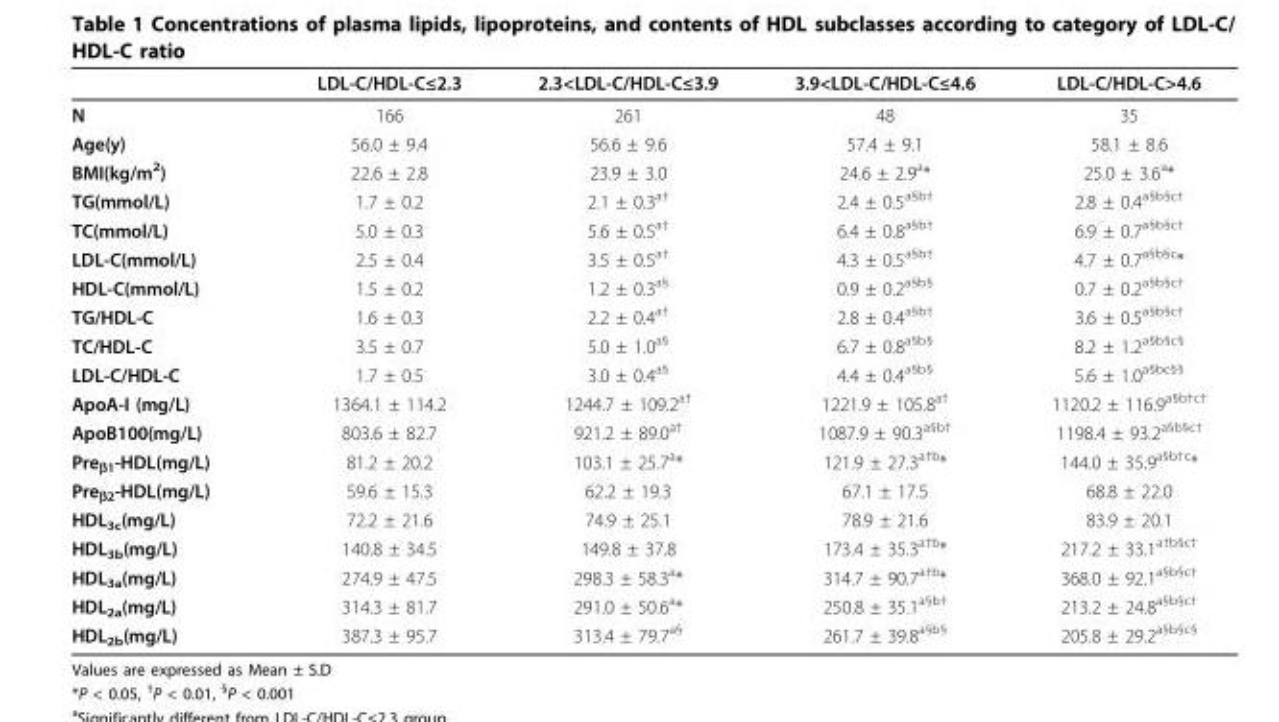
<table><thead><tr><td></td><td>LDL-C/HDL-C≤2.3</td><td>2.3&lt;LDL-C/HDL-C≤3.9</td><td>3.9&lt;LDL-C/HDL-C≤4.6</td><td>LDL-C/HDL-C&gt;4.6</td></tr></thead><tbody><tr><td>N</td><td>166</td><td>261</td><td>48</td><td>35</td></tr><tr><td>Age(y)</td><td>56.0 ± 9.4</td><td>56.6 ± 9.6</td><td>57.4 ± 9.1</td><td>58.1 ± 8.6</td></tr><tr><td>BMI(kg/m<sup>2</sup>)</td><td>22.6 ± 2.8</td><td>23.9 ± 3.0</td><td>24.6 ± 2.9<sup>a</sup>*</td><td>25.0 ± 3.6<sup>a</sup>*</td></tr><tr><td>TG(mmol/L)</td><td>1.7 ± 0.2</td><td>2.1 ± 0.3<sup>a†</sup></td><td>2.4 ± 0.5<sup>a§b†</sup></td><td>2.8 ± 0.4<sup>a§b§c†</sup></td></tr><tr><td>TC(mmol/L)</td><td>5.0 ± 0.3</td><td>5.6 ± 0.5<sup>a†</sup></td><td>6.4 ± 0.8<sup>a§b†</sup></td><td>6.9 ± 0.7<sup>a§b§c†</sup></td></tr><tr><td>LDL-C(mmol/L)</td><td>2.5 ± 0.4</td><td>3.5 ± 0.5<sup>a†</sup></td><td>4.3 ± 0.5<sup>a§b†</sup></td><td>4.7 ± 0.7<sup>a§b§c</sup>*</td></tr><tr><td>HDL-C(mmol/L)</td><td>1.5 ± 0.2</td><td>1.2 ± 0.3<sup>a§</sup></td><td>0.9 ± 0.2<sup>a§b§</sup></td><td>0.7 ± 0.2<sup>a§b§c†</sup></td></tr><tr><td>TG/HDL-C</td><td>1.6 ± 0.3</td><td>2.2 ± 0.4<sup>a†</sup></td><td>2.8 ± 0.4<sup>a§b†</sup></td><td>3.6 ± 0.5<sup>a§b§c†</sup></td></tr><tr><td>TC/HDL-C</td><td>3.5 ± 0.7</td><td>5.0 ± 1.0<sup>a§</sup></td><td>6.7 ± 0.8<sup>a§b§</sup></td><td>8.2 ± 1.2<sup>a§b§c§</sup></td></tr><tr><td>LDL-C/HDL-C</td><td>1.7 ± 0.5</td><td>3.0 ± 0.4<sup>a§</sup></td><td>4.4 ± 0.4<sup>a§b§</sup></td><td>5.6 ± 1.0<sup>a§bc§§</sup></td></tr><tr><td>ApoA-I (mg/L)</td><td>1364.1 ± 114.2</td><td>1244.7 ± 109.2<sup>a†</sup></td><td>1221.9 ± 105.8<sup>a†</sup></td><td>1120.2 ± 116.9<sup>a§b†c†</sup></td></tr><tr><td>ApoB100(mg/L)</td><td>803.6 ± 82.7</td><td>921.2 ± 89.0<sup>a†</sup></td><td>1087.9 ± 90.3<sup>a§b†</sup></td><td>1198.4 ± 93.2<sup>a§b§c†</sup></td></tr><tr><td>Pre<sub>β1</sub>-HDL(mg/L)</td><td>81.2 ± 20.2</td><td>103.1 ± 25.7<sup>a</sup>*</td><td>121.9 ± 27.3<sup>a†b</sup>*</td><td>144.0 ± 35.9<sup>a§b†c</sup>*</td></tr><tr><td>Pre<sub>β2</sub>-HDL(mg/L)</td><td>59.6 ± 15.3</td><td>62.2 ± 19.3</td><td>67.1 ± 17.5</td><td>68.8 ± 22.0</td></tr><tr><td>HDL<sub>3c</sub>(mg/L)</td><td>72.2 ± 21.6</td><td>74.9 ± 25.1</td><td>78.9 ± 21.6</td><td>83.9 ± 20.1</td></tr><tr><td>HDL<sub>3b</sub>(mg/L)</td><td>140.8 ± 34.5</td><td>149.8 ± 37.8</td><td>173.4 ± 35.3<sup>a†b</sup>*</td><td>217.2 ± 33.1<sup>a†b§c†</sup></td></tr><tr><td>HDL<sub>3a</sub>(mg/L)</td><td>274.9 ± 47.5</td><td>298.3 ± 58.3<sup>a</sup>*</td><td>314.7 ± 90.7<sup>a†b</sup>*</td><td>368.0 ± 92.1<sup>a§b§c†</sup></td></tr><tr><td>HDL<sub>2a</sub>(mg/L)</td><td>314.3 ± 81.7</td><td>291.0 ± 50.6<sup>a</sup>*</td><td>250.8 ± 35.1<sup>a§b†</sup></td><td>213.2 ± 24.8<sup>a§b§c†</sup></td></tr><tr><td>HDL<sub>2b</sub>(mg/L)</td><td>387.3 ± 95.7</td><td>313.4 ± 79.7<sup>a§</sup></td><td>261.7 ± 39.8<sup>a§b§</sup></td><td>205.8 ± 29.2<sup>a§b§c§</sup></td></tr></tbody></table>